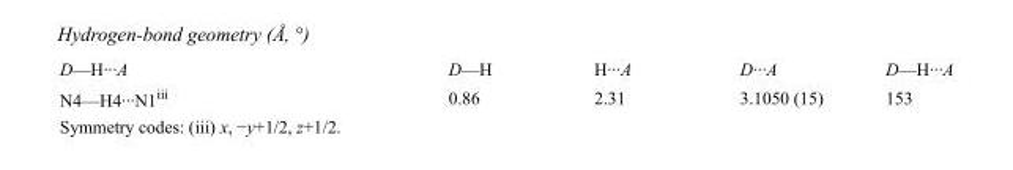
<table><tbody><tr><td>D—H···A</td><td>D—H</td><td>H···A</td><td>D···A</td><td>D—H···A</td></tr><tr><td>N4—H4···N1<sup>iii</sup></td><td>0.86</td><td>2.31</td><td>3.1050 (15)</td><td>153</td></tr></tbody></table>